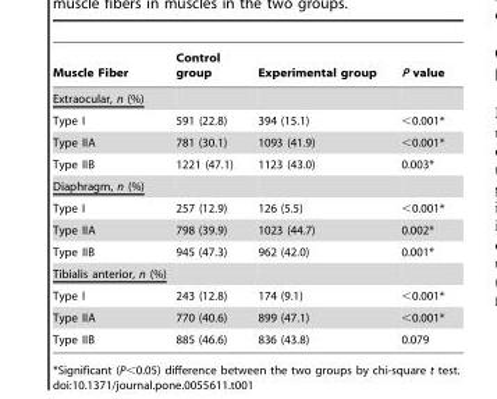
<table><thead><tr><td>Muscle Fiber</td><td>Control group</td><td>Experimental group</td><td>P value</td></tr></thead><tbody><tr><td colspan="4">Extraocular, n (%)</td></tr><tr><td>Type I</td><td>591 (22.8)</td><td>394 (15.1)</td><td>&lt;0.001*</td></tr><tr><td>Type IIA</td><td>781 (30.1)</td><td>1093 (41.9)</td><td>&lt;0.001*</td></tr><tr><td>Type IIB</td><td>1221 (47.1)</td><td>1123 (43.0)</td><td>0.003*</td></tr><tr><td colspan="4">Diaphragm, n (%)</td></tr><tr><td>Type I</td><td>257 (12.9)</td><td>126 (5.5)</td><td>&lt;0.001*</td></tr><tr><td>Type IIA</td><td>798 (39.9)</td><td>1023 (44.7)</td><td>0.002*</td></tr><tr><td>Type IIB</td><td>945 (47.3)</td><td>962 (42.0)</td><td>0.001*</td></tr><tr><td colspan="4">Tibialis anterior, n (%)</td></tr><tr><td>Type I</td><td>243 (12.8)</td><td>174 (9.1)</td><td>&lt;0.001*</td></tr><tr><td>Type IIA</td><td>770 (40.6)</td><td>899 (47.1)</td><td>&lt;0.001*</td></tr><tr><td>Type IIB</td><td>885 (46.6)</td><td>836 (43.8)</td><td>0.079</td></tr></tbody></table>